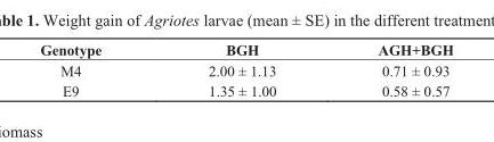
<table><thead><tr><td>Genotype</td><td>BGH</td><td>AGH+BGH</td></tr></thead><tbody><tr><td>M4</td><td>2.00 ± 1.13</td><td>0.71 ± 0.93</td></tr><tr><td>E9</td><td>1.35 ± 1.00</td><td>0.58 ± 0.57</td></tr></tbody></table>